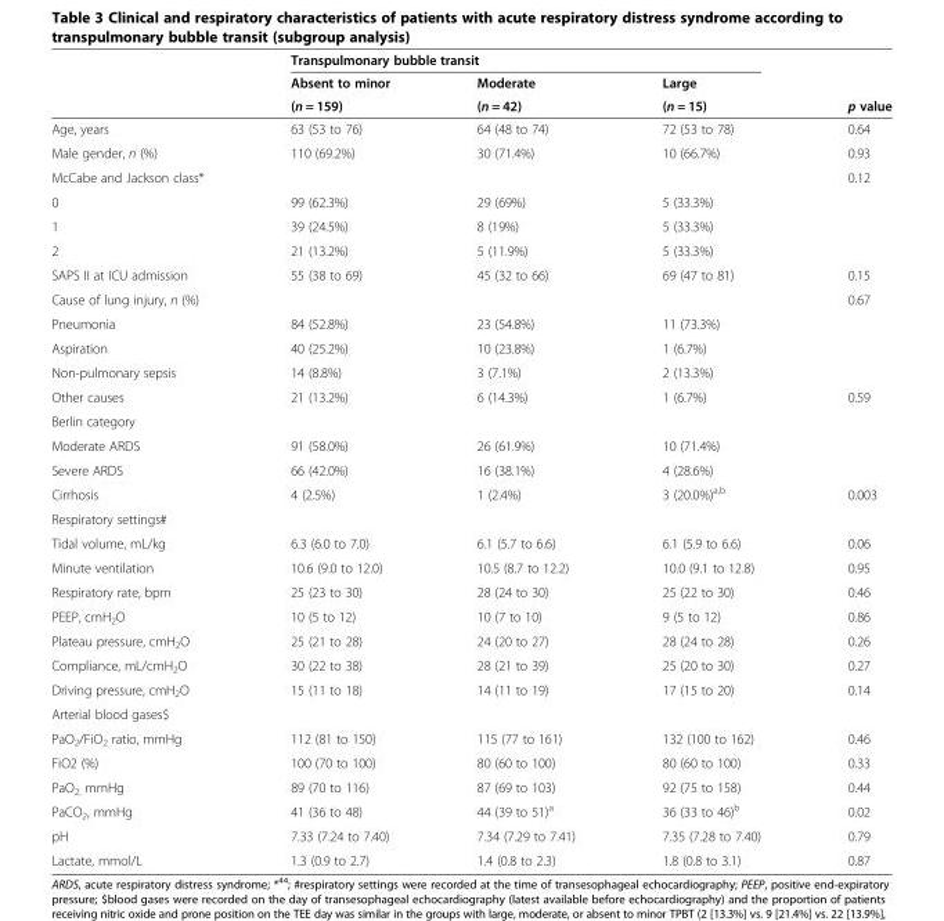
<table><thead><tr><td rowspan="3"></td><td colspan="3">Transpulmonary bubble transit</td><td rowspan="3">p value</td></tr><tr><td rowspan="2">Absent to minor (n = 159)</td><td rowspan="2">Moderate (n = 42)</td><td rowspan="2">Large (n = 15)</td></tr><tr></tr></thead><tbody><tr><td>Age, years</td><td>63 (53 to 76)</td><td>64 (48 to 74)</td><td>72 (53 to 78)</td><td>0.64</td></tr><tr><td>Male gender, n (%)</td><td>110 (69.2%)</td><td>30 (71.4%)</td><td>10 (66.7%)</td><td>0.93</td></tr><tr><td>McCabe and Jackson class*</td><td></td><td></td><td></td><td>0.12</td></tr><tr><td>0</td><td>99 (62.3%)</td><td>29 (69%)</td><td>5 (33.3%)</td><td></td></tr><tr><td>1</td><td>39 (24.5%)</td><td>8 (19%)</td><td>5 (33.3%)</td><td></td></tr><tr><td>2</td><td>21 (13.2%)</td><td>5 (11.9%)</td><td>5 (33.3%)</td><td></td></tr><tr><td>SAPS II at ICU admission</td><td>55 (38 to 69)</td><td>45 (32 to 66)</td><td>69 (47 to 81)</td><td>0.15</td></tr><tr><td>Cause of lung injury, n (%)</td><td></td><td></td><td></td><td>0.67</td></tr><tr><td>Pneumonia</td><td>84 (52.8%)</td><td>23 (54.8%)</td><td>11 (73.3%)</td><td></td></tr><tr><td>Aspiration</td><td>40 (25.2%)</td><td>10 (23.8%)</td><td>1 (6.7%)</td><td></td></tr><tr><td>Non-pulmonary sepsis</td><td>14 (8.8%)</td><td>3 (7.1%)</td><td>2 (13.3%)</td><td></td></tr><tr><td>Other causes</td><td>21 (13.2%)</td><td>6 (14.3%)</td><td>1 (6.7%)</td><td>0.59</td></tr><tr><td colspan="5">Berlin category</td></tr><tr><td>Moderate ARDS</td><td>91 (58.0%)</td><td>26 (61.9%)</td><td>10 (71.4%)</td><td></td></tr><tr><td>Severe ARDS</td><td>66 (42.0%)</td><td>16 (38.1%)</td><td>4 (28.6%)</td><td></td></tr><tr><td>Cirrhosis</td><td>4 (2.5%)</td><td>1 (2.4%)</td><td>3 (20.0%)<sup>a,b</sup></td><td>0.003</td></tr><tr><td colspan="5">Respiratory settings#</td></tr><tr><td>Tidal volume, mL/kg</td><td>6.3 (6.0 to 7.0)</td><td>6.1 (5.7 to 6.6)</td><td>6.1 (5.9 to 6.6)</td><td>0.06</td></tr><tr><td>Minute ventilation</td><td>10.6 (9.0 to 12.0)</td><td>10.5 (8.7 to 12.2)</td><td>10.0 (9.1 to 12.8)</td><td>0.95</td></tr><tr><td>Respiratory rate, bpm</td><td>25 (23 to 30)</td><td>28 (24 to 30)</td><td>25 (22 to 30)</td><td>0.46</td></tr><tr><td>PEEP, cmH<sub>2</sub>O</td><td>10 (5 to 12)</td><td>10 (7 to 10)</td><td>9 (5 to 12)</td><td>0.86</td></tr><tr><td>Plateau pressure, cmH<sub>2</sub>O</td><td>25 (21 to 28)</td><td>24 (20 to 27)</td><td>28 (24 to 28)</td><td>0.26</td></tr><tr><td>Compliance, mL/cmH<sub>2</sub>O</td><td>30 (22 to 38)</td><td>28 (21 to 39)</td><td>25 (20 to 30)</td><td>0.27</td></tr><tr><td>Driving pressure, cmH<sub>2</sub>O</td><td>15 (11 to 18)</td><td>14 (11 to 19)</td><td>17 (15 to 20)</td><td>0.14</td></tr><tr><td colspan="5">Arterial blood gases$</td></tr><tr><td>PaO<sub>2</sub>/FiO<sub>2</sub> ratio, mmHg</td><td>112 (81 to 150)</td><td>115 (77 to 161)</td><td>132 (100 to 162)</td><td>0.46</td></tr><tr><td>FiO2 (%)</td><td>100 (70 to 100)</td><td>80 (60 to 100)</td><td>80 (60 to 100)</td><td>0.33</td></tr><tr><td>PaO<sub>2,</sub> mmHg</td><td>89 (70 to 116)</td><td>87 (69 to 103)</td><td>92 (75 to 158)</td><td>0.44</td></tr><tr><td>PaCO<sub>2</sub>, mmHg</td><td>41 (36 to 48)</td><td>44 (39 to 51)<sup>a</sup></td><td>36 (33 to 46)<sup>b</sup></td><td>0.02</td></tr><tr><td>pH</td><td>7.33 (7.24 to 7.40)</td><td>7.34 (7.29 to 7.41)</td><td>7.35 (7.28 to 7.40)</td><td>0.79</td></tr><tr><td>Lactate, mmol/L</td><td>1.3 (0.9 to 2.7)</td><td>1.4 (0.8 to 2.3)</td><td>1.8 (0.8 to 3.1)</td><td>0.87</td></tr></tbody></table>